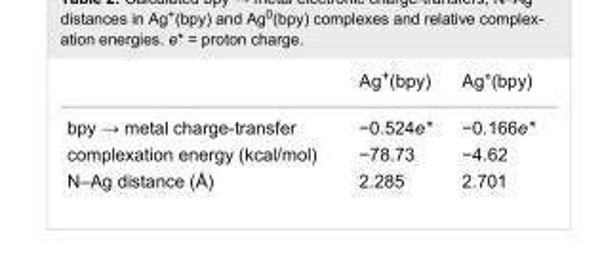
<table><thead><tr><td></td><td>Ag<sup>+</sup>(bpy)</td><td>Ag°(bpy)</td></tr></thead><tbody><tr><td>bpy → metal charge-transfer</td><td>−0.524e*</td><td>−0.166e*</td></tr><tr><td>complexation energy (kcal/mol)</td><td>−78.73</td><td>−4.62</td></tr><tr><td>N–Ag distance (Å)</td><td>2.285</td><td>2.701</td></tr></tbody></table>